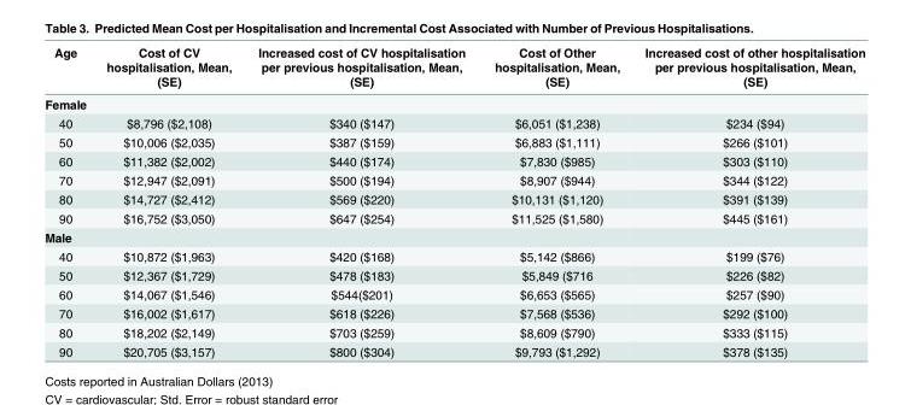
<table><thead><tr><td>Age</td><td>Cost of CV hospitalisation, Mean, (SE)</td><td>Increased cost of CV hospitalisation per previous hospitalisation, Mean, (SE)</td><td>Cost of Other hospitalisation, Mean, (SE)</td><td>Increased cost of other hospitalisation per previous hospitalisation, Mean, (SE)</td></tr></thead><tbody><tr><td colspan="5">Female</td></tr><tr><td>40</td><td>$8,796 ($2,108)</td><td>$340 ($147)</td><td>$6,051 ($1,238)</td><td>$234 ($94)</td></tr><tr><td>50</td><td>$10,006 ($2,035)</td><td>$387 ($159)</td><td>$6,883 ($1,111)</td><td>$266 ($101)</td></tr><tr><td>60</td><td>$11,382 ($2,002)</td><td>$440 ($174)</td><td>$7,830 ($985)</td><td>$303 ($110)</td></tr><tr><td>70</td><td>$12,947 ($2,091)</td><td>$500 ($194)</td><td>$8,907 ($944)</td><td>$344 ($122)</td></tr><tr><td>80</td><td>$14,727 ($2,412)</td><td>$569 ($220)</td><td>$10,131 ($1,120)</td><td>$391 ($139)</td></tr><tr><td>90</td><td>$16,752 ($3,050)</td><td>$647 ($254)</td><td>$11,525 ($1,580)</td><td>$445 ($161)</td></tr><tr><td colspan="5">Male</td></tr><tr><td>40</td><td>$10,872 ($1,963)</td><td>$420 ($168)</td><td>$5,142 ($866)</td><td>$199 ($76)</td></tr><tr><td>50</td><td>$12,367 ($1,729)</td><td>$478 ($183)</td><td>$5,849 ($716</td><td>$226 ($82)</td></tr><tr><td>60</td><td>$14,067 ($1,546)</td><td>$544($201)</td><td>$6,653 ($565)</td><td>$257 ($90)</td></tr><tr><td>70</td><td>$16,002 ($1,617)</td><td>$618 ($226)</td><td>$7,568 ($536)</td><td>$292 ($100)</td></tr><tr><td>80</td><td>$18,202 ($2,149)</td><td>$703 ($259)</td><td>$8,609 ($790)</td><td>$333 ($115)</td></tr><tr><td>90</td><td>$20,705 ($3,157)</td><td>$800 ($304)</td><td>$9,793 ($1,292)</td><td>$378 ($135)</td></tr></tbody></table>